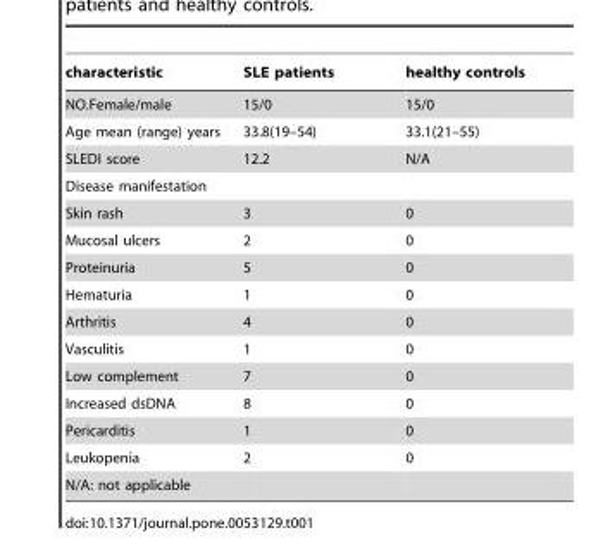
<table><thead><tr><td>characteristic</td><td>SLE patients</td><td>healthy controls</td></tr></thead><tbody><tr><td>NO.Female/male</td><td>15/0</td><td>15/0</td></tr><tr><td>Age mean (range) years</td><td>33.8(19–54)</td><td>33.1(21–55)</td></tr><tr><td>SLEDI score</td><td>12.2</td><td>N/A</td></tr><tr><td colspan="3">Disease manifestation</td></tr><tr><td>Skin rash</td><td>3</td><td>0</td></tr><tr><td>Mucosal ulcers</td><td>2</td><td>0</td></tr><tr><td>Proteinuria</td><td>5</td><td>0</td></tr><tr><td>Hematuria</td><td>1</td><td>0</td></tr><tr><td>Arthritis</td><td>4</td><td>0</td></tr><tr><td>Vasculitis</td><td>1</td><td>0</td></tr><tr><td>Low complement</td><td>7</td><td>0</td></tr><tr><td>Increased dsDNA</td><td>8</td><td>0</td></tr><tr><td>Pericarditis</td><td>1</td><td>0</td></tr><tr><td>Leukopenia</td><td>2</td><td>0</td></tr><tr><td>N/A: not applicable</td><td></td><td></td></tr></tbody></table>